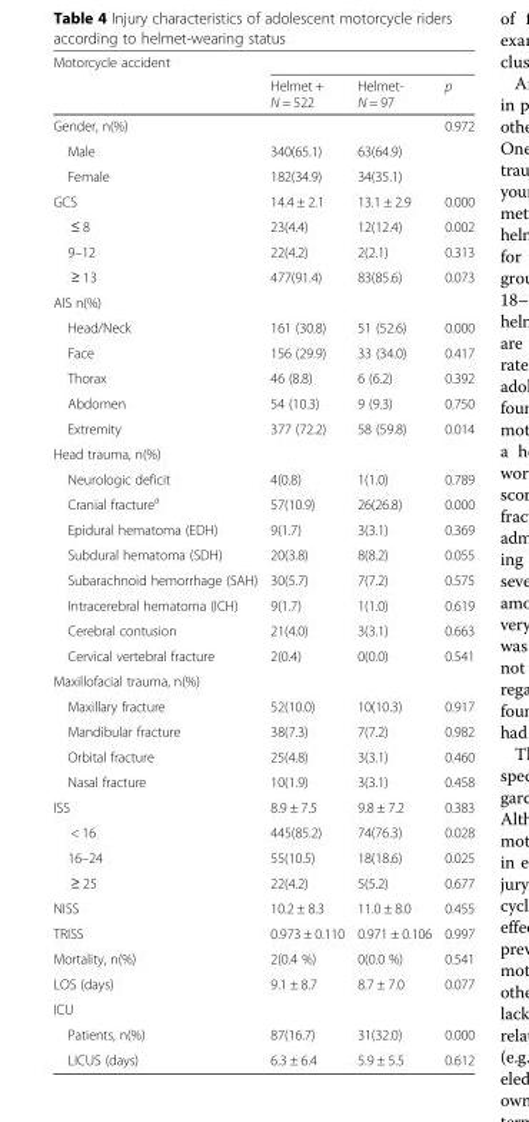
<table><thead><tr><td rowspan="2">Motorcycle accident</td><td rowspan="2">Helmet + N = 522</td><td rowspan="2">Helmet- N = 97</td><td rowspan="2">p</td></tr><tr></tr></thead><tbody><tr><td>Gender, n(%)</td><td></td><td></td><td>0.972</td></tr><tr><td>Male</td><td>340(65.1)</td><td>63(64.9)</td><td></td></tr><tr><td>Female</td><td>182(34.9)</td><td>34(35.1)</td><td></td></tr><tr><td>GCS</td><td>14.4 ± 2.1</td><td>13.1 ± 2.9</td><td>0.000</td></tr><tr><td>≤ 8</td><td>23(4.4)</td><td>12(12.4)</td><td>0.002</td></tr><tr><td>9–12</td><td>22(4.2)</td><td>2(2.1)</td><td>0.313</td></tr><tr><td>≥ 13</td><td>477(91.4)</td><td>83(85.6)</td><td>0.073</td></tr><tr><td colspan="4">AIS n(%)</td></tr><tr><td>Head/Neck</td><td>161 (30.8)</td><td>51 (52.6)</td><td>0.000</td></tr><tr><td>Face</td><td>156 (29.9)</td><td>33 (34.0)</td><td>0.417</td></tr><tr><td>Thorax</td><td>46 (8.8)</td><td>6 (6.2)</td><td>0.392</td></tr><tr><td>Abdomen</td><td>54 (10.3)</td><td>9 (9.3)</td><td>0.750</td></tr><tr><td>Extremity</td><td>377 (72.2)</td><td>58 (59.8)</td><td>0.014</td></tr><tr><td colspan="4">Head trauma, n(%)</td></tr><tr><td>Neurologic deficit</td><td>4(0.8)</td><td>1(1.0)</td><td>0.789</td></tr><tr><td>Cranial fracture<sup>a</sup></td><td>57(10.9)</td><td>26(26.8)</td><td>0.000</td></tr><tr><td>Epidural hematoma (EDH)</td><td>9(1.7)</td><td>3(3.1)</td><td>0.369</td></tr><tr><td>Subdural hematoma (SDH)</td><td>20(3.8)</td><td>8(8.2)</td><td>0.055</td></tr><tr><td>Subarachnoid hemorrhage (SAH)</td><td>30(5.7)</td><td>7(7.2)</td><td>0.575</td></tr><tr><td>Intracerebral hematoma (ICH)</td><td>9(1.7)</td><td>1(1.0)</td><td>0.619</td></tr><tr><td>Cerebral contusion</td><td>21(4.0)</td><td>3(3.1)</td><td>0.663</td></tr><tr><td>Cervical vertebral fracture</td><td>2(0.4)</td><td>0(0.0)</td><td>0.541</td></tr><tr><td colspan="4">Maxillofacial trauma, n(%)</td></tr><tr><td>Maxillary fracture</td><td>52(10.0)</td><td>10(10.3)</td><td>0.917</td></tr><tr><td>Mandibular fracture</td><td>38(7.3)</td><td>7(7.2)</td><td>0.982</td></tr><tr><td>Orbital fracture</td><td>25(4.8)</td><td>3(3.1)</td><td>0.460</td></tr><tr><td>Nasal fracture</td><td>10(1.9)</td><td>3(3.1)</td><td>0.458</td></tr><tr><td>ISS</td><td>8.9 ± 7.5</td><td>9.8 ± 7.2</td><td>0.383</td></tr><tr><td>&lt; 16</td><td>445(85.2)</td><td>74(76.3)</td><td>0.028</td></tr><tr><td>16–24</td><td>55(10.5)</td><td>18(18.6)</td><td>0.025</td></tr><tr><td>≥ 25</td><td>22(4.2)</td><td>5(5.2)</td><td>0.677</td></tr><tr><td>NISS</td><td>10.2 ± 8.3</td><td>11.0 ± 8.0</td><td>0.455</td></tr><tr><td>TRISS</td><td>0.973 ± 0.110</td><td>0.971 ± 0.106</td><td>0.997</td></tr><tr><td>Mortality, n(%)</td><td>2(0.4 %)</td><td>0(0.0 %)</td><td>0.541</td></tr><tr><td>LOS (days)</td><td>9.1 ± 8.7</td><td>8.7 ± 7.0</td><td>0.077</td></tr><tr><td colspan="4">ICU</td></tr><tr><td>Patients, n(%)</td><td>87(16.7)</td><td>31(32.0)</td><td>0.000</td></tr><tr><td>LICUS (days)</td><td>6.3 ± 6.4</td><td>5.9 ± 5.5</td><td>0.612</td></tr></tbody></table>